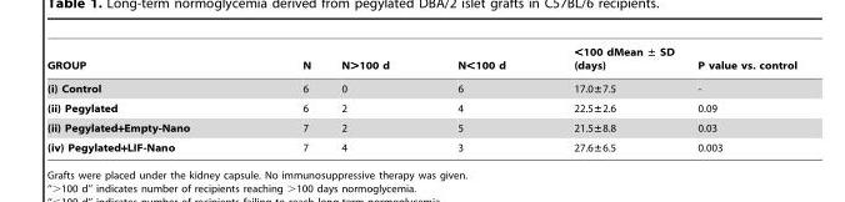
<table><thead><tr><td>GROUP</td><td>N</td><td>N&gt;100 d</td><td>N&lt;100 d</td><td>&lt;100 dMean ± SD (days)</td><td>P value vs. control</td></tr></thead><tbody><tr><td>(i) Control</td><td>6</td><td>0</td><td>6</td><td>17.0±7.5</td><td>-</td></tr><tr><td>(ii) Pegylated</td><td>6</td><td>2</td><td>4</td><td>22.5±2.6</td><td>0.09</td></tr><tr><td>(ii) Pegylated+Empty-Nano</td><td>7</td><td>2</td><td>5</td><td>21.5±8.8</td><td>0.03</td></tr><tr><td>(iv) Pegylated+LIF-Nano</td><td>7</td><td>4</td><td>3</td><td>27.6±6.5</td><td>0.003</td></tr></tbody></table>